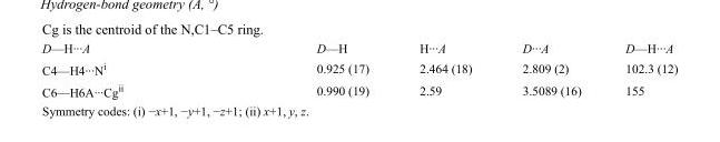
<table><tbody><tr><td>D—H···A</td><td>D—H</td><td>H···A</td><td>D···A</td><td>D—H···A</td></tr><tr><td>C4—H4···N<sup>i</sup></td><td>0.925 (17)</td><td>2.464 (18)</td><td>2.809 (2)</td><td>102.3 (12)</td></tr><tr><td>C6—H6A···Cg<sup>ii</sup></td><td>0.990 (19)</td><td>2.59</td><td>3.5089 (16)</td><td>155</td></tr></tbody></table>